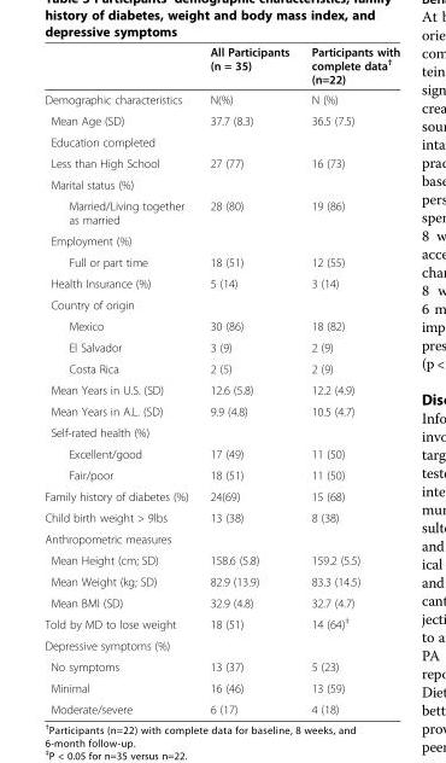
<table><thead><tr><td></td><td>All Participants (n = 35)</td><td>Participants with complete data<sup>†</sup> (n=22)</td></tr></thead><tbody><tr><td>Demographic characteristics</td><td>N(%)</td><td>N (%)</td></tr><tr><td>Mean Age (SD)</td><td>37.7 (8.3)</td><td>36.5 (7.5)</td></tr><tr><td colspan="3">Education completed</td></tr><tr><td>Less than High School</td><td>27 (77)</td><td>16 (73)</td></tr><tr><td colspan="3">Marital status (%)</td></tr><tr><td>Married/Living together as married</td><td>28 (80)</td><td>19 (86)</td></tr><tr><td colspan="3">Employment (%)</td></tr><tr><td>Full or part time</td><td>18 (51)</td><td>12 (55)</td></tr><tr><td>Health Insurance (%)</td><td>5 (14)</td><td>3 (14)</td></tr><tr><td colspan="3">Country of origin</td></tr><tr><td>Mexico</td><td>30 (86)</td><td>18 (82)</td></tr><tr><td>El Salvador</td><td>3 (9)</td><td>2 (9)</td></tr><tr><td>Costa Rica</td><td>2 (5)</td><td>2 (9)</td></tr><tr><td>Mean Years in U.S. (SD)</td><td>12.6 (5.8)</td><td>12.2 (4.9)</td></tr><tr><td>Mean Years in A.L. (SD)</td><td>9.9 (4.8)</td><td>10.5 (4.7)</td></tr><tr><td colspan="3">Self-rated health (%)</td></tr><tr><td>Excellent/good</td><td>17 (49)</td><td>11 (50)</td></tr><tr><td>Fair/poor</td><td>18 (51)</td><td>11 (50)</td></tr><tr><td>Family history of diabetes (%)</td><td>24(69)</td><td>15 (68)</td></tr><tr><td>Child birth weight &gt; 9lbs</td><td>13 (38)</td><td>8 (38)</td></tr><tr><td colspan="3">Anthropometric measures</td></tr><tr><td>Mean Height (cm; SD)</td><td>158.6 (5.8)</td><td>159.2 (5.5)</td></tr><tr><td>Mean Weight (kg; SD)</td><td>82.9 (13.9)</td><td>83.3 (14.5)</td></tr><tr><td>Mean BMI (SD)</td><td>32.9 (4.8)</td><td>32.7 (4.7)</td></tr><tr><td>Told by MD to lose weight</td><td>18 (51)</td><td>14 (64)<sup>‡</sup></td></tr><tr><td colspan="3">Depressive symptoms (%)</td></tr><tr><td>No symptoms</td><td>13 (37)</td><td>5 (23)</td></tr><tr><td>Minimal</td><td>16 (46)</td><td>13 (59)</td></tr><tr><td>Moderate/severe</td><td>6 (17)</td><td>4 (18)</td></tr></tbody></table>